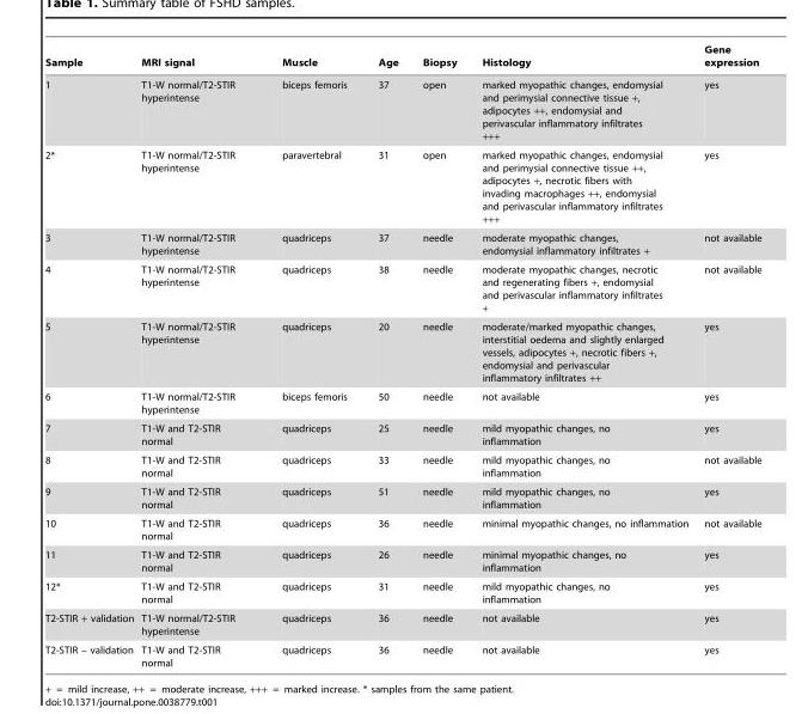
<table><thead><tr><td>Sample</td><td>MRI signal</td><td>Muscle</td><td>Age</td><td>Biopsy</td><td>Histology</td><td>Gene expression</td></tr></thead><tbody><tr><td>1</td><td>T1-W normal/T2-STIR hyperintense</td><td>biceps femoris</td><td>37</td><td>open</td><td>marked myopathic changes, endomysial and perimysial connective tissue +, adipocytes ++, endomysial and perivascular inflammatory infiltrates +++</td><td>yes</td></tr><tr><td>2*</td><td>T1-W normal/T2-STIR hyperintense</td><td>paravertebral</td><td>31</td><td>open</td><td>marked myopathic changes, endomysial and perimysial connective tissue ++, adipocytes +, necrotic fibers with invading macrophages ++, endomysial and perivascular inflammatory infiltrates +++</td><td>yes</td></tr><tr><td>3</td><td>T1-W normal/T2-STIR hyperintense</td><td>quadriceps</td><td>37</td><td>needle</td><td>moderate myopathic changes, endomysial inflammatory infiltrates +</td><td>not available</td></tr><tr><td>4</td><td>T1-W normal/T2-STIR hyperintense</td><td>quadriceps</td><td>38</td><td>needle</td><td>moderate myopathic changes, necrotic and regenerating fibers +, endomysial and perivascular inflammatory infiltrates +</td><td>not available</td></tr><tr><td>5</td><td>T1-W normal/T2-STIR hyperintense</td><td>quadriceps</td><td>20</td><td>needle</td><td>moderate/marked myopathic changes, interstitial oedema and slightly enlarged vessels, adipocytes +, necrotic fibers +, endomysial and perivascular inflammatory infiltrates ++</td><td>yes</td></tr><tr><td>6</td><td>T1-W normal/T2-STIR hyperintense</td><td>biceps femoris</td><td>50</td><td>needle</td><td>not available</td><td>yes</td></tr><tr><td>7</td><td>T1-W and T2-STIR normal</td><td>quadriceps</td><td>25</td><td>needle</td><td>mild myopathic changes, no inflammation</td><td>yes</td></tr><tr><td>8</td><td>T1-W and T2-STIR normal</td><td>quadriceps</td><td>33</td><td>needle</td><td>mild myopathic changes, no inflammation</td><td>not available</td></tr><tr><td>9</td><td>T1-W and T2-STIR normal</td><td>quadriceps</td><td>51</td><td>needle</td><td>mild myopathic changes, no inflammation</td><td>yes</td></tr><tr><td>10</td><td>T1-W and T2-STIR normal</td><td>quadriceps</td><td>36</td><td>needle</td><td>minimal myopathic changes, no inflammation</td><td>not available</td></tr><tr><td>11</td><td>T1-W and T2-STIR normal</td><td>quadriceps</td><td>26</td><td>needle</td><td>minimal myopathic changes, no inflammation</td><td>yes</td></tr><tr><td>12*</td><td>T1-W and T2-STIR normal</td><td>quadriceps</td><td>31</td><td>needle</td><td>mild myopathic changes, no inflammation</td><td>yes</td></tr><tr><td>T2-STIR + validation</td><td>T1-W normal/T2-STIR hyperintense</td><td>quadriceps</td><td>36</td><td>needle</td><td>not available</td><td>yes</td></tr><tr><td>T2-STIR – validation</td><td>T1-W and T2-STIR normal</td><td>quadriceps</td><td>36</td><td>needle</td><td>not available</td><td>yes</td></tr></tbody></table>